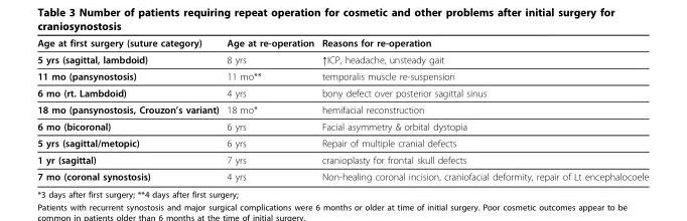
<table><thead><tr><td>Age at first surgery (suture category)</td><td>Age at re-operation</td><td>Reasons for re-operation</td></tr></thead><tbody><tr><td>5 yrs (sagittal, lambdoid)</td><td>8 yrs</td><td>↑ICP, headache, unsteady gait</td></tr><tr><td>11 mo (pansynostosis)</td><td>11 mo**</td><td>temporalis muscle re-suspension</td></tr><tr><td>6 mo (rt. Lambdoid)</td><td>4 yrs</td><td>bony defect over posterior sagittal sinus</td></tr><tr><td>18 mo (pansynostosis, Crouzon’s variant)</td><td>18 mo*</td><td>hemifacial reconstruction</td></tr><tr><td>6 mo (bicoronal)</td><td>6 yrs</td><td>Facial asymmetry &amp; orbital dystopia</td></tr><tr><td>5 yrs (sagittal/metopic)</td><td>6 yrs</td><td>Repair of multiple cranial defects</td></tr><tr><td>1 yr (sagittal)</td><td>7 yrs</td><td>cranioplasty for frontal skull defects</td></tr><tr><td>7 mo (coronal synostosis)</td><td>4 yrs</td><td>Non-healing coronal incision, craniofacial deformity, repair of Lt encephalocoele</td></tr></tbody></table>